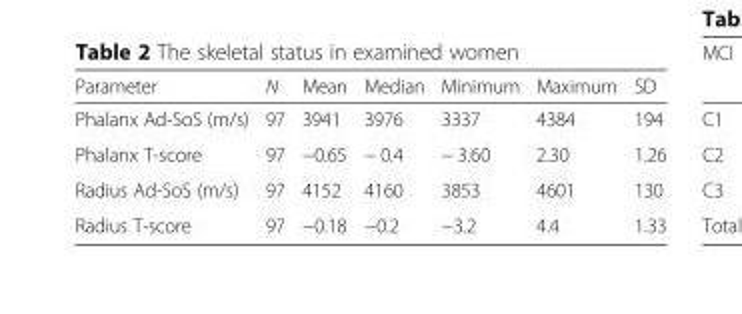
<table><thead><tr><td>Parameter</td><td>N</td><td>Mean</td><td>Median</td><td>Minimum</td><td>Maximum</td><td>SD</td></tr></thead><tbody><tr><td>Phalanx Ad-SoS (m/s)</td><td>97</td><td>3941</td><td>3976</td><td>3337</td><td>4384</td><td>194</td></tr><tr><td>Phalanx T-score</td><td>97</td><td>−0.65</td><td>− 0.4</td><td>− 3.60</td><td>2.30</td><td>1.26</td></tr><tr><td>Radius Ad-SoS (m/s)</td><td>97</td><td>4152</td><td>4160</td><td>3853</td><td>4601</td><td>130</td></tr><tr><td>Radius T-score</td><td>97</td><td>−0.18</td><td>−0.2</td><td>−3.2</td><td>4.4</td><td>1.33</td></tr></tbody></table>